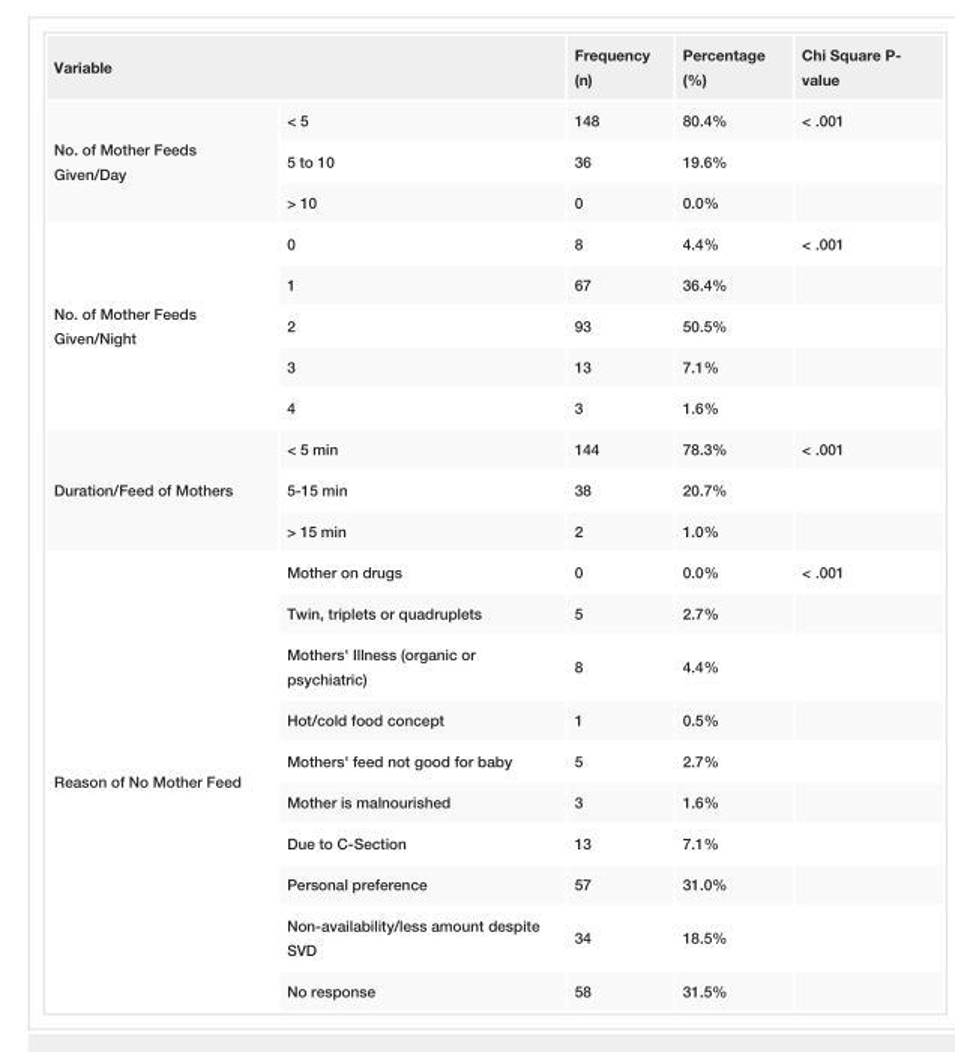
<table><tbody><tr><td colspan="2">Variable</td><td>Frequency (n)</td><td>Percentage (%)</td><td>Chi Square P- value</td></tr><tr><td rowspan="3">No. of Mother Feeds Given/Day</td><td>&lt; 5</td><td>148</td><td>80.4%</td><td>&lt; .001</td></tr><tr><td>5 to 10</td><td>36</td><td>19.6%</td><td></td></tr><tr><td>&gt; 10</td><td>0</td><td>0.0%</td><td></td></tr><tr><td rowspan="5">No. of Mother Feeds Given/Night</td><td>0</td><td>8</td><td>4.4%</td><td>&lt; .001</td></tr><tr><td>1</td><td>67</td><td>36.4%</td><td></td></tr><tr><td>2</td><td>93</td><td>50.5%</td><td></td></tr><tr><td>3</td><td>13</td><td>7.1%</td><td></td></tr><tr><td>4</td><td>3</td><td>1.6%</td><td></td></tr><tr><td rowspan="3">Duration/Feed of Mothers</td><td>&lt; 5 min</td><td>144</td><td>78.3%</td><td>&lt; .001</td></tr><tr><td>5-15 min</td><td>38</td><td>20.7%</td><td></td></tr><tr><td>&gt; 15 min</td><td>2</td><td>1.0%</td><td></td></tr><tr><td rowspan="10">Reason of No Mother Feed</td><td>Mother on drugs</td><td>0</td><td>0.0%</td><td>&lt; .001</td></tr><tr><td>Twin, triplets or quadruplets</td><td>5</td><td>2.7%</td><td></td></tr><tr><td>Mothers&#x27; Illness (organic or psychiatric)</td><td>8</td><td>4.4%</td><td></td></tr><tr><td>Hot/cold food concept</td><td>1</td><td>0.5%</td><td></td></tr><tr><td>Mothers&#x27; feed not good for baby</td><td>5</td><td>2.7%</td><td></td></tr><tr><td>Mother is malnourished</td><td>3</td><td>1.6%</td><td></td></tr><tr><td>Due to C-Section</td><td>13</td><td>7.1%</td><td></td></tr><tr><td>Personal preference</td><td>57</td><td>31.0%</td><td></td></tr><tr><td>Non-availability/less amount despite SVD</td><td>34</td><td>18.5%</td><td></td></tr><tr><td>No response</td><td>58</td><td>31.5%</td><td></td></tr></tbody></table>